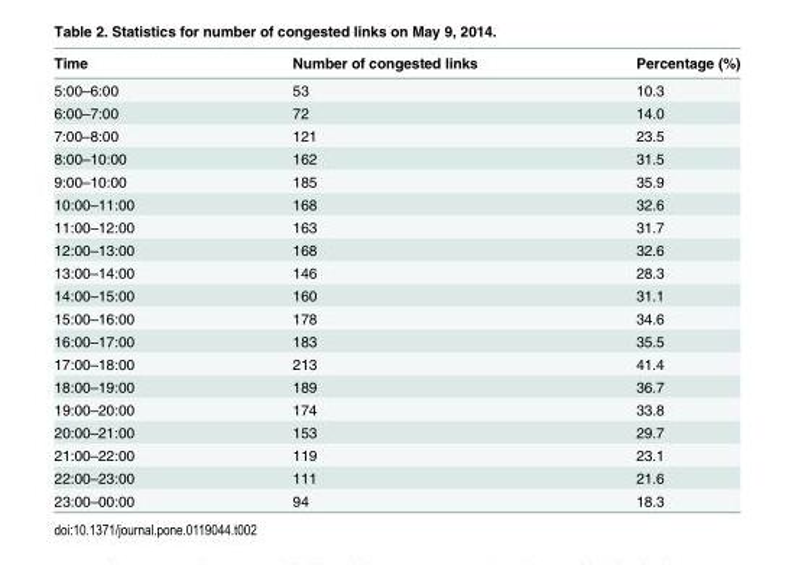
<table><thead><tr><td>Time</td><td>Number of congested links</td><td>Percentage (%)</td></tr></thead><tbody><tr><td>5:00–6:00</td><td>53</td><td>10.3</td></tr><tr><td>6:00–7:00</td><td>72</td><td>14.0</td></tr><tr><td>7:00–8:00</td><td>121</td><td>23.5</td></tr><tr><td>8:00–10:00</td><td>162</td><td>31.5</td></tr><tr><td>9:00–10:00</td><td>185</td><td>35.9</td></tr><tr><td>10:00–11:00</td><td>168</td><td>32.6</td></tr><tr><td>11:00–12:00</td><td>163</td><td>31.7</td></tr><tr><td>12:00–13:00</td><td>168</td><td>32.6</td></tr><tr><td>13:00–14:00</td><td>146</td><td>28.3</td></tr><tr><td>14:00–15:00</td><td>160</td><td>31.1</td></tr><tr><td>15:00–16:00</td><td>178</td><td>34.6</td></tr><tr><td>16:00–17:00</td><td>183</td><td>35.5</td></tr><tr><td>17:00–18:00</td><td>213</td><td>41.4</td></tr><tr><td>18:00–19:00</td><td>189</td><td>36.7</td></tr><tr><td>19:00–20:00</td><td>174</td><td>33.8</td></tr><tr><td>20:00–21:00</td><td>153</td><td>29.7</td></tr><tr><td>21:00–22:00</td><td>119</td><td>23.1</td></tr><tr><td>22:00–23:00</td><td>111</td><td>21.6</td></tr><tr><td>23:00–00:00</td><td>94</td><td>18.3</td></tr></tbody></table>